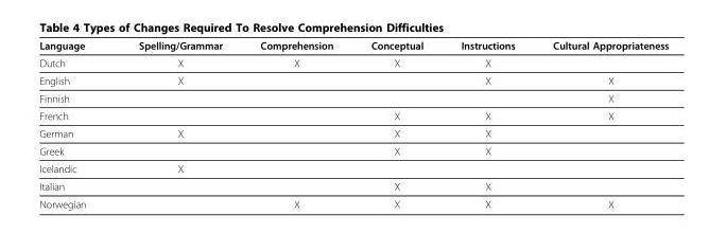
<table><thead><tr><td>Language</td><td>Spelling/Grammar</td><td>Comprehension</td><td>Conceptual</td><td>Instructions</td><td>Cultural Appropriateness</td></tr></thead><tbody><tr><td>Dutch</td><td>X</td><td>X</td><td>X</td><td>X</td><td></td></tr><tr><td>English</td><td>X</td><td></td><td></td><td>X</td><td>X</td></tr><tr><td>Finnish</td><td></td><td></td><td></td><td></td><td>X</td></tr><tr><td>French</td><td></td><td></td><td>X</td><td>X</td><td>X</td></tr><tr><td>German</td><td>X</td><td></td><td>X</td><td>X</td><td></td></tr><tr><td>Greek</td><td></td><td></td><td>X</td><td>X</td><td></td></tr><tr><td>Icelandic</td><td>X</td><td></td><td></td><td></td><td></td></tr><tr><td>Italian</td><td></td><td></td><td>X</td><td>X</td><td></td></tr><tr><td>Norwegian</td><td></td><td>X</td><td>X</td><td>X</td><td>X</td></tr></tbody></table>